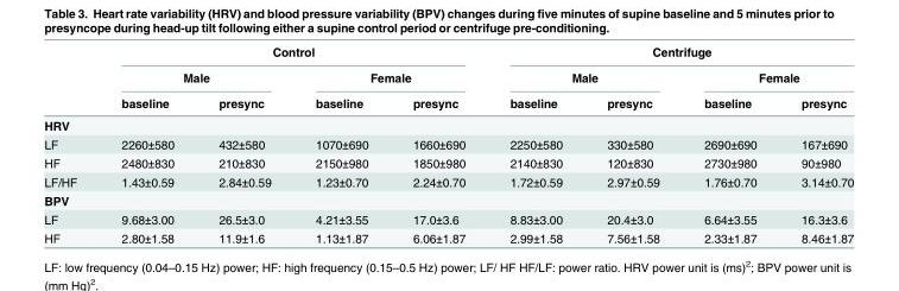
<table><thead><tr><td rowspan="3"></td><td colspan="4">Control</td><td colspan="4">Centrifuge</td></tr><tr><td colspan="2">Male</td><td colspan="2">Female</td><td colspan="2">Male</td><td colspan="2">Female</td></tr><tr><td>baseline</td><td>presync</td><td>baseline</td><td>presync</td><td>baseline</td><td>presync</td><td>baseline</td><td>presync</td></tr></thead><tbody><tr><td colspan="9">HRV</td></tr><tr><td>LF</td><td>2260±580</td><td>432±580</td><td>1070±690</td><td>1660±690</td><td>2250±580</td><td>330±580</td><td>2690±690</td><td>167±690</td></tr><tr><td>HF</td><td>2480±830</td><td>210±830</td><td>2150±980</td><td>1850±980</td><td>2140±830</td><td>120±830</td><td>2730±980</td><td>90±980</td></tr><tr><td>LF/HF</td><td>1.43±0.59</td><td>2.84±0.59</td><td>1.23±0.70</td><td>2.24±0.70</td><td>1.72±0.59</td><td>2.97±0.59</td><td>1.76±0.70</td><td>3.14±0.70</td></tr><tr><td colspan="9">BPV</td></tr><tr><td>LF</td><td>9.68±3.00</td><td>26.5±3.0</td><td>4.21±3.55</td><td>17.0±3.6</td><td>8.83±3.00</td><td>20.4±3.0</td><td>6.64±3.55</td><td>16.3±3.6</td></tr><tr><td>HF</td><td>2.80±1.58</td><td>11.9±1.6</td><td>1.13±1.87</td><td>6.06±1.87</td><td>2.99±1.58</td><td>7.56±1.58</td><td>2.33±1.87</td><td>8.46±1.87</td></tr></tbody></table>